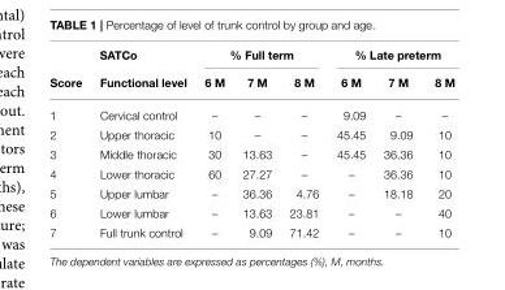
<table><thead><tr><td colspan="2">SATCo</td><td colspan="3">% Full term</td><td colspan="3">% Late preterm</td></tr><tr><td>Score</td><td>Functional level</td><td>6 M</td><td>7 M</td><td>8 M</td><td>6 M</td><td>7 M</td><td>8 M</td></tr></thead><tbody><tr><td>1</td><td>Cervical control</td><td>–</td><td>–</td><td>–</td><td>9.09</td><td>–</td><td>–</td></tr><tr><td>2</td><td>Upper thoracic</td><td>10</td><td>–</td><td>–</td><td>45.45</td><td>9.09</td><td>10</td></tr><tr><td>3</td><td>Middle thoracic</td><td>30</td><td>13.63</td><td>–</td><td>45.45</td><td>36.36</td><td>10</td></tr><tr><td>4</td><td>Lower thoracic</td><td>60</td><td>27.27</td><td>–</td><td>–</td><td>36.36</td><td>10</td></tr><tr><td>5</td><td>Upper lumbar</td><td>–</td><td>36.36</td><td>4.76</td><td>–</td><td>18.18</td><td>20</td></tr><tr><td>6</td><td>Lower lumbar</td><td>–</td><td>13.63</td><td>23.81</td><td>–</td><td>–</td><td>40</td></tr><tr><td>7</td><td>Full trunk control</td><td>–</td><td>9.09</td><td>71.42</td><td>–</td><td>–</td><td>10</td></tr></tbody></table>